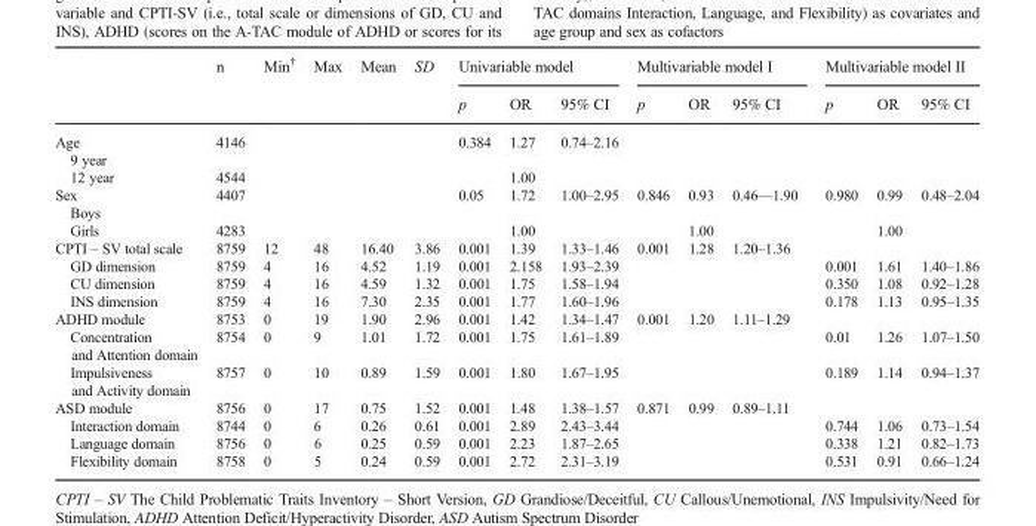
<table><thead><tr><td rowspan="2"></td><td rowspan="2">n</td><td rowspan="2">Min<sup>†</sup></td><td rowspan="2">Max</td><td rowspan="2">Mean</td><td rowspan="2">SD</td><td colspan="3">Univariable model</td><td colspan="3">Multivariable model I</td><td colspan="3">Multivariable model II</td></tr><tr><td>p</td><td>OR</td><td>95% CI</td><td>p</td><td>OR</td><td>95% CI</td><td>p</td><td>OR</td><td>95% CI</td></tr></thead><tbody><tr><td>Age 9 year</td><td>4146</td><td></td><td></td><td></td><td></td><td>0.384</td><td>1.27</td><td>0.74–2.16</td><td></td><td></td><td></td><td></td><td></td><td></td></tr><tr><td>12 year</td><td>4544</td><td></td><td></td><td></td><td></td><td></td><td>1.00</td><td></td><td></td><td></td><td></td><td></td><td></td><td></td></tr><tr><td>Sex Boys</td><td>4407</td><td></td><td></td><td></td><td></td><td>0.05</td><td>1.72</td><td>1.00–2.95</td><td>0.846</td><td>0.93</td><td>0.46—1.90</td><td>0.980</td><td>0.99</td><td>0.48–2.04</td></tr><tr><td>Girls</td><td>4283</td><td></td><td></td><td></td><td></td><td></td><td>1.00</td><td></td><td></td><td>1.00</td><td></td><td></td><td>1.00</td><td></td></tr><tr><td>CPTI – SV total scale</td><td>8759</td><td>12</td><td>48</td><td>16.40</td><td>3.86</td><td>0.001</td><td>1.39</td><td>1.33–1.46</td><td>0.001</td><td>1.28</td><td>1.20–1.36</td><td></td><td></td><td></td></tr><tr><td>GD dimension</td><td>8759</td><td>4</td><td>16</td><td>4.52</td><td>1.19</td><td>0.001</td><td>2.158</td><td>1.93–2.39</td><td></td><td></td><td></td><td>0.001</td><td>1.61</td><td>1.40–1.86</td></tr><tr><td>CU dimension</td><td>8759</td><td>4</td><td>16</td><td>4.59</td><td>1.32</td><td>0.001</td><td>1.75</td><td>1.58–1.94</td><td></td><td></td><td></td><td>0.350</td><td>1.08</td><td>0.92–1.28</td></tr><tr><td>INS dimension</td><td>8759</td><td>4</td><td>16</td><td>7.30</td><td>2.35</td><td>0.001</td><td>1.77</td><td>1.60–1.96</td><td></td><td></td><td></td><td>0.178</td><td>1.13</td><td>0.95–1.35</td></tr><tr><td>ADHD module</td><td>8753</td><td>0</td><td>19</td><td>1.90</td><td>2.96</td><td>0.001</td><td>1.42</td><td>1.34–1.47</td><td>0.001</td><td>1.20</td><td>1.11–1.29</td><td></td><td></td><td></td></tr><tr><td>Concentration and Attention domain</td><td>8754</td><td>0</td><td>9</td><td>1.01</td><td>1.72</td><td>0.001</td><td>1.75</td><td>1.61–1.89</td><td></td><td></td><td></td><td>0.01</td><td>1.26</td><td>1.07–1.50</td></tr><tr><td>Impulsiveness and Activity domain</td><td>8757</td><td>0</td><td>10</td><td>0.89</td><td>1.59</td><td>0.001</td><td>1.80</td><td>1.67–1.95</td><td></td><td></td><td></td><td>0.189</td><td>1.14</td><td>0.94–1.37</td></tr><tr><td>ASD module</td><td>8756</td><td>0</td><td>17</td><td>0.75</td><td>1.52</td><td>0.001</td><td>1.48</td><td>1.38–1.57</td><td>0.871</td><td>0.99</td><td>0.89–1.11</td><td></td><td></td><td></td></tr><tr><td>Interaction domain</td><td>8744</td><td>0</td><td>6</td><td>0.26</td><td>0.61</td><td>0.001</td><td>2.89</td><td>2.43–3.44</td><td></td><td></td><td></td><td>0.744</td><td>1.06</td><td>0.73–1.54</td></tr><tr><td>Language domain</td><td>8756</td><td>0</td><td>6</td><td>0.25</td><td>0.59</td><td>0.001</td><td>2.23</td><td>1.87–2.65</td><td></td><td></td><td></td><td>0.338</td><td>1.21</td><td>0.82–1.73</td></tr><tr><td>Flexibility domain</td><td>8758</td><td>0</td><td>5</td><td>0.24</td><td>0.59</td><td>0.001</td><td>2.72</td><td>2.31–3.19</td><td></td><td></td><td></td><td>0.531</td><td>0.91</td><td>0.66–1.24</td></tr></tbody></table>